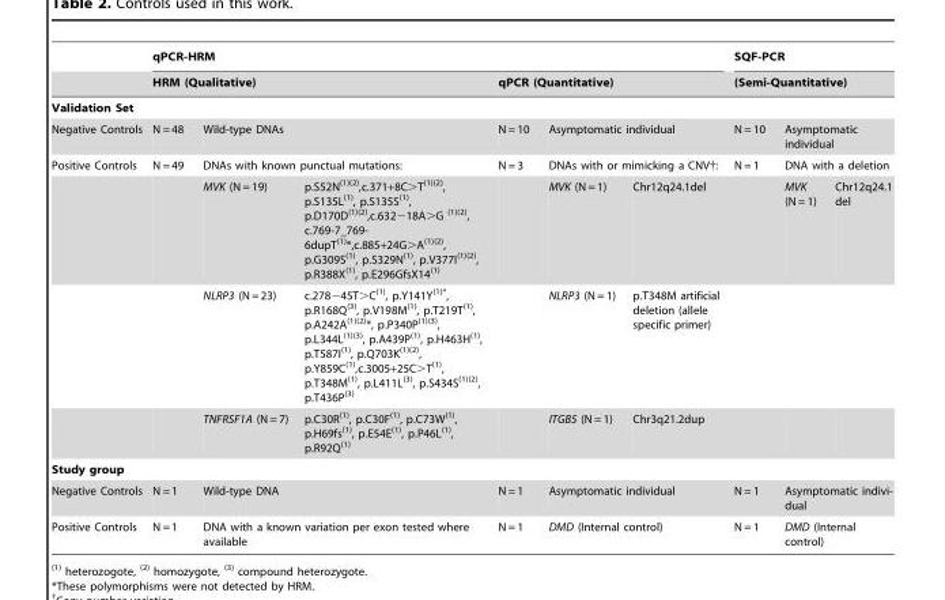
<table><thead><tr><td rowspan="3">Validation Set</td><td colspan="6">qPCR-HRM</td><td rowspan="2" colspan="3">SQF-PCR (Semi-Quantitative)</td></tr><tr><td colspan="3">HRM (Qualitative)</td><td colspan="3">qPCR (Quantitative)</td></tr><tr><td></td><td></td><td></td><td></td><td></td><td></td><td></td><td></td><td></td></tr></thead><tbody><tr><td>Negative Controls</td><td>N = 48</td><td colspan="2">Wild-type DNAs</td><td>N = 10</td><td colspan="2">Asymptomatic individual</td><td>N = 10</td><td colspan="2">Asymptomatic individual</td></tr><tr><td rowspan="4">Positive Controls</td><td>N = 49</td><td colspan="2">DNAs with known punctual mutations:</td><td>N = 3</td><td colspan="2">DNAs with or mimicking a CNV†:</td><td>N = 1</td><td colspan="2">DNA with a deletion</td></tr><tr><td></td><td>MVK (N = 19)</td><td>p.S52N<sup>(1)(2)</sup>,c.371+8C&gt;T<sup>(1)(2)</sup>, p.S135L<sup>(1)</sup>, p.S135S<sup>(1)</sup>, p.D170D<sup>(1)(2)</sup>,c.632−18A&gt;G <sup>(1)(2)</sup>, c.769-7_769- 6dupT<sup>(1)</sup>*,c.885+24G&gt;A<sup>(1)(2)</sup>, p.G309S<sup>(1)</sup>, p.S329N<sup>(1)</sup>, p.V377I<sup>(1)(2)</sup>, p.R388X<sup>(1)</sup>, p.E296GfsX14<sup>(1)</sup></td><td></td><td>MVK (N = 1)</td><td>Chr12q24.1del</td><td></td><td>MVK (N = 1)</td><td>Chr12q24.1 del</td></tr><tr><td></td><td>NLRP3 (N = 23)</td><td>c.278−45T&gt;C<sup>(1)</sup>, p.Y141Y<sup>(1)*</sup>, p.R168Q<sup>(3)</sup>, p.V198M<sup>(1)</sup>, p.T219T<sup>(1)</sup>, p.A242A<sup>(1)(2)</sup>*, p.P340P<sup>(1)(3)</sup>, p.L344L<sup>(1)(3)</sup>, p.A439P<sup>(1)</sup>, p.H463H<sup>(1)</sup>, p.T587I<sup>(1)</sup>, p.Q703K<sup>(1)(2)</sup>, p.Y859C<sup>(1)</sup>,c.3005+25C&gt;T<sup>(1)</sup>, p.T348M<sup>(1)</sup>, p.L411L<sup>(3)</sup>, p.S434S<sup>(1)(2)</sup>, p.T436P<sup>(3)</sup></td><td></td><td>NLRP3 (N = 1)</td><td>p.T348M artificial deletion (allele specific primer)</td><td></td><td></td><td></td></tr><tr><td></td><td>TNFRSF1A (N = 7)</td><td>p.C30R<sup>(1)</sup>, p.C30F<sup>(1)</sup>, p.C73W<sup>(1)</sup>, p.H69fs<sup>(1)</sup>, p.E54E<sup>(1)</sup>, p.P46L<sup>(1)</sup>, p.R92Q<sup>(1)</sup></td><td></td><td>ITGB5 (N = 1)</td><td>Chr3q21.2dup</td><td></td><td></td><td></td></tr><tr><td colspan="10">Study group</td></tr><tr><td>Negative Controls</td><td>N = 1</td><td>Wild-type DNA</td><td></td><td>N = 1</td><td colspan="2">Asymptomatic individual</td><td>N = 1</td><td colspan="2">Asymptomatic indivi- dual</td></tr><tr><td>Positive Controls</td><td>N = 1</td><td colspan="2">DNA with a known variation per exon tested where available</td><td>N = 1</td><td colspan="2">DMD (Internal control)</td><td>N = 1</td><td colspan="2">DMD (Internal control)</td></tr></tbody></table>